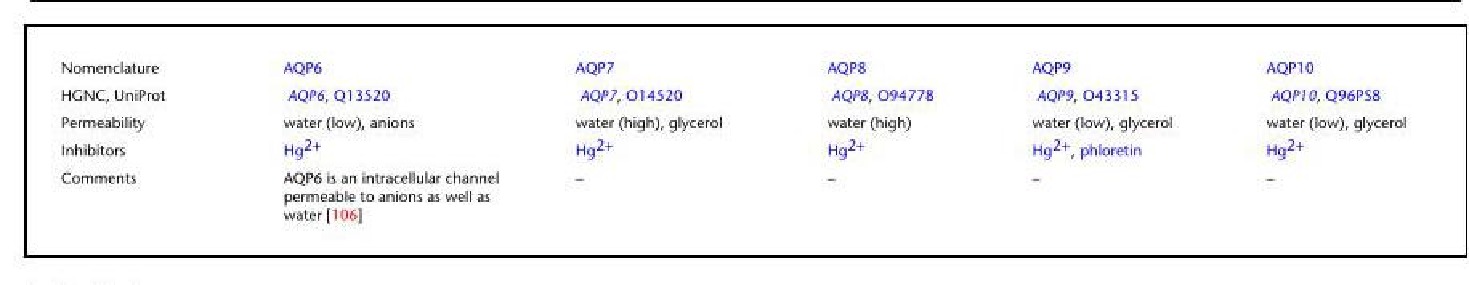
<table><tbody><tr><td>Nomenclature</td><td>AQP6</td><td>AQP7</td><td>AQP8</td><td>AQP9</td><td>AQP10</td></tr><tr><td>HGNC, UniProt</td><td>AQP6, Q13520</td><td>AQP7, O14520</td><td>AQP8, O94778</td><td>AQP9, O43315</td><td>AQP10, Q96PS8</td></tr><tr><td>Permeability</td><td>water (low), anions</td><td>water (high), glycerol</td><td>water (high)</td><td>water (low), glycerol</td><td>water (low), glycerol</td></tr><tr><td>Inhibitors</td><td>Hg<sup>2+</sup></td><td>Hg<sup>2+</sup></td><td>Hg<sup>2+</sup></td><td>Hg<sup>2+</sup>, phloretin</td><td>Hg<sup>2+</sup></td></tr><tr><td>Comments</td><td>AQP6 is an intracellular channel permeable to anions as well as water [106]</td><td>–</td><td>–</td><td>–</td><td>–</td></tr></tbody></table>